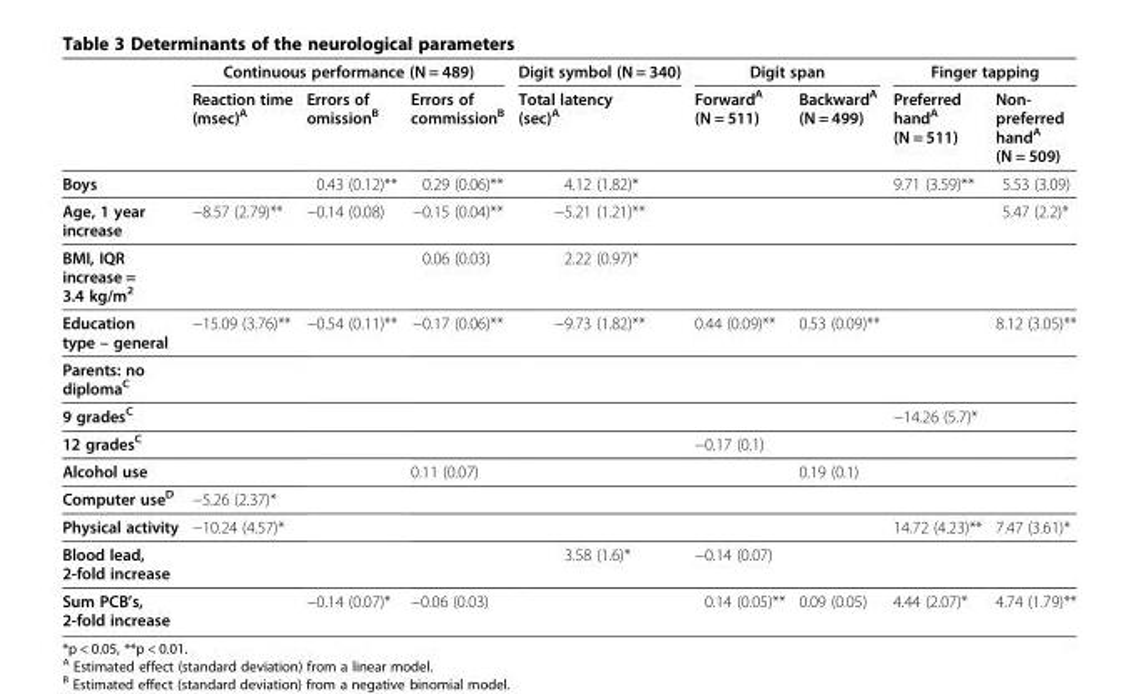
<table><thead><tr><td rowspan="2"></td><td colspan="3">Continuous performance (N = 489)</td><td rowspan="2">Digit symbol (N = 340) Total latency (sec)<sup>A</sup></td><td colspan="2">Digit span</td><td colspan="2">Finger tapping</td></tr><tr><td>Reaction time (msec)<sup>A</sup></td><td>Errors of omission<sup>B</sup></td><td>Errors of commission<sup>B</sup></td><td>Forward<sup>A</sup> (N = 511)</td><td>Backward<sup>A</sup> (N = 499)</td><td>Preferred hand<sup>A</sup> (N = 511)</td><td>Non- preferred hand<sup>A</sup> (N = 509)</td></tr></thead><tbody><tr><td>Boys</td><td></td><td>0.43 (0.12)**</td><td>0.29 (0.06)**</td><td>4.12 (1.82)*</td><td></td><td></td><td>9.71 (3.59)**</td><td>5.53 (3.09)</td></tr><tr><td>Age, 1 year increase</td><td>−8.57 (2.79)**</td><td>−0.14 (0.08)</td><td>−0.15 (0.04)**</td><td>−5.21 (1.21)**</td><td></td><td></td><td></td><td>5.47 (2.2)*</td></tr><tr><td>BMI, IQR increase = 3.4 kg/m<sup>2</sup></td><td></td><td></td><td>0.06 (0.03)</td><td>2.22 (0.97)*</td><td></td><td></td><td></td><td></td></tr><tr><td>Education type – general</td><td>−15.09 (3.76)**</td><td>−0.54 (0.11)**</td><td>−0.17 (0.06)**</td><td>−9.73 (1.82)**</td><td>0.44 (0.09)**</td><td>0.53 (0.09)**</td><td></td><td>8.12 (3.05)**</td></tr><tr><td colspan="9">Parents: no diploma<sup>C</sup></td></tr><tr><td>9 grades<sup>C</sup></td><td></td><td></td><td></td><td></td><td></td><td></td><td>−14.26 (5.7)*</td><td></td></tr><tr><td>12 grades<sup>C</sup></td><td></td><td></td><td></td><td></td><td>−0.17 (0.1)</td><td></td><td></td><td></td></tr><tr><td>Alcohol use</td><td></td><td></td><td>0.11 (0.07)</td><td></td><td></td><td>0.19 (0.1)</td><td></td><td></td></tr><tr><td>Computer use<sup>D</sup></td><td>−5.26 (2.37)*</td><td></td><td></td><td></td><td></td><td></td><td></td><td></td></tr><tr><td>Physical activity</td><td>−10.24 (4.57)*</td><td></td><td></td><td></td><td></td><td></td><td>14.72 (4.23)**</td><td>7.47 (3.61)*</td></tr><tr><td>Blood lead, 2-fold increase</td><td></td><td></td><td></td><td>3.58 (1.6)*</td><td>−0.14 (0.07)</td><td></td><td></td><td></td></tr><tr><td>Sum PCB’s, 2-fold increase</td><td></td><td>−0.14 (0.07)*</td><td>−0.06 (0.03)</td><td></td><td>0.14 (0.05)**</td><td>0.09 (0.05)</td><td>4.44 (2.07)*</td><td>4.74 (1.79)**</td></tr></tbody></table>